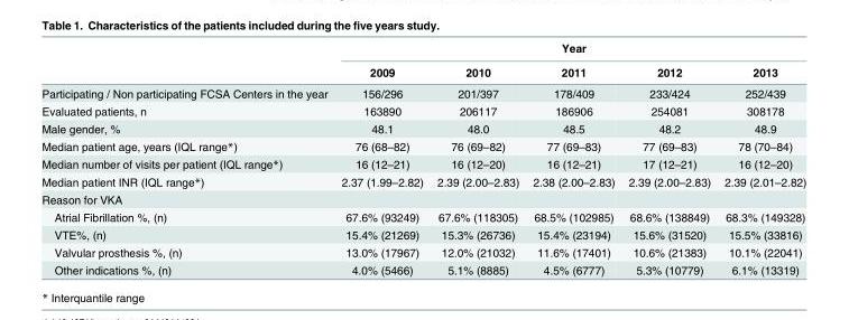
<table><thead><tr><td rowspan="2"></td><td colspan="5">Year</td></tr><tr><td>2009</td><td>2010</td><td>2011</td><td>2012</td><td>2013</td></tr></thead><tbody><tr><td>Participating / Non participating FCSA Centers in the year</td><td>156/296</td><td>201/397</td><td>178/409</td><td>233/424</td><td>252/439</td></tr><tr><td>Evaluated patients, n</td><td>163890</td><td>206117</td><td>186906</td><td>254081</td><td>308178</td></tr><tr><td>Male gender, %</td><td>48.1</td><td>48.0</td><td>48.5</td><td>48.2</td><td>48.9</td></tr><tr><td>Median patient age, years (IQL range*)</td><td>76 (68–82)</td><td>76 (69–82)</td><td>77 (69–83)</td><td>77 (69–83)</td><td>78 (70–84)</td></tr><tr><td>Median number of visits per patient (IQL range*)</td><td>16 (12–21)</td><td>16 (12–20)</td><td>16 (12–21)</td><td>17 (12–21)</td><td>16 (12–20)</td></tr><tr><td>Median patient INR (IQL range*)</td><td>2.37 (1.99–2.82)</td><td>2.39 (2.00–2.83)</td><td>2.38 (2.00–2.83)</td><td>2.39 (2.00–2.83)</td><td>2.39 (2.01–2.82)</td></tr><tr><td colspan="6">Reason for VKA</td></tr><tr><td>Atrial Fibrillation %, (n)</td><td>67.6% (93249)</td><td>67.6% (118305)</td><td>68.5% (102985)</td><td>68.6% (138849)</td><td>68.3% (149328)</td></tr><tr><td>VTE%, (n)</td><td>15.4% (21269)</td><td>15.3% (26736)</td><td>15.4% (23194)</td><td>15.6% (31520)</td><td>15.5% (33816)</td></tr><tr><td>Valvular prosthesis %, (n)</td><td>13.0% (17967)</td><td>12.0% (21032)</td><td>11.6% (17401)</td><td>10.6% (21383)</td><td>10.1% (22041)</td></tr><tr><td>Other indications %, (n)</td><td>4.0% (5466)</td><td>5.1% (8885)</td><td>4.5% (6777)</td><td>5.3% (10779)</td><td>6.1% (13319)</td></tr></tbody></table>